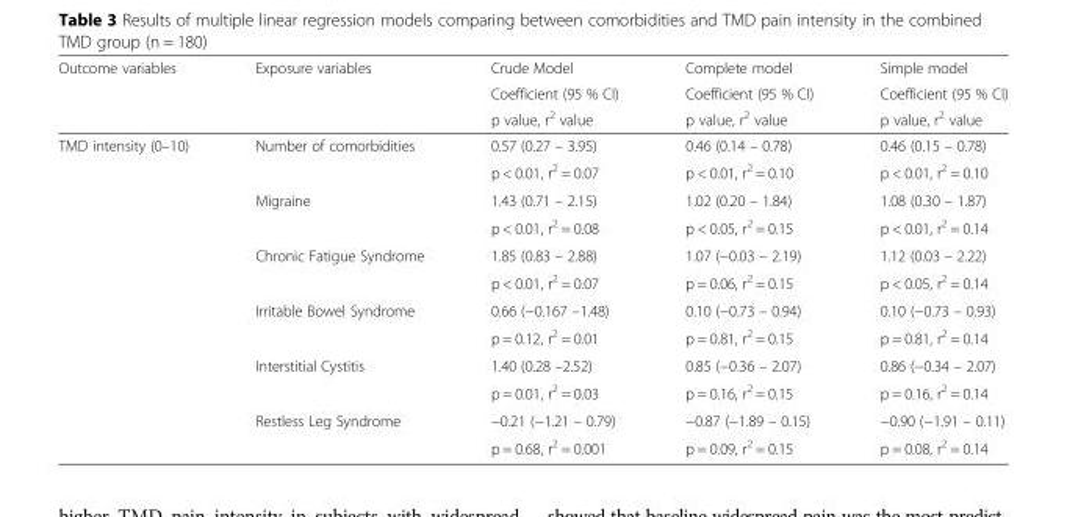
<table><thead><tr><td rowspan="3">Outcome variables</td><td rowspan="3">Exposure variables</td><td rowspan="3">Crude Model Coefficient (95 % CI) p value, r<sup>2</sup> value</td><td rowspan="3">Complete model Coefficient (95 % CI) p value, r<sup>2</sup> value</td><td rowspan="3">Simple model Coefficient (95 % CI) p value, r<sup>2</sup> value</td></tr><tr></tr><tr></tr></thead><tbody><tr><td rowspan="12">TMD intensity (0–10)</td><td rowspan="2">Number of comorbidities</td><td>0.57 (0.27 – 3.95)</td><td>0.46 (0.14 – 0.78)</td><td>0.46 (0.15 – 0.78)</td></tr><tr><td>p &lt; 0.01, r<sup>2</sup> = 0.07</td><td>p &lt; 0.01, r<sup>2</sup> = 0.10</td><td>p &lt; 0.01, r<sup>2</sup> = 0.10</td></tr><tr><td rowspan="2">Migraine</td><td>1.43 (0.71 – 2.15)</td><td>1.02 (0.20 – 1.84)</td><td>1.08 (0.30 – 1.87)</td></tr><tr><td>p &lt; 0.01, r<sup>2</sup> = 0.08</td><td>p &lt; 0.05, r<sup>2</sup> = 0.15</td><td>p &lt; 0.01, r<sup>2</sup> = 0.14</td></tr><tr><td rowspan="2">Chronic Fatigue Syndrome</td><td>1.85 (0.83 – 2.88)</td><td>1.07 (−0.03 – 2.19)</td><td>1.12 (0.03 – 2.22)</td></tr><tr><td>p &lt; 0.01, r<sup>2</sup> = 0.07</td><td>p = 0.06, r<sup>2</sup> = 0.15</td><td>p &lt; 0.05, r<sup>2</sup> = 0.14</td></tr><tr><td rowspan="2">Irritable Bowel Syndrome</td><td>0.66 (−0.167 –1.48)</td><td>0.10 (−0.73 – 0.94)</td><td>0.10 (−0.73 – 0.93)</td></tr><tr><td>p = 0.12, r<sup>2</sup> = 0.01</td><td>p = 0.81, r<sup>2</sup> = 0.15</td><td>p = 0.81, r<sup>2</sup> = 0.14</td></tr><tr><td rowspan="2">Interstitial Cystitis</td><td>1.40 (0.28 –2.52)</td><td>0.85 (−0.36 – 2.07)</td><td>0.86 (−0.34 – 2.07)</td></tr><tr><td>p = 0.01, r<sup>2</sup> = 0.03</td><td>p = 0.16, r<sup>2</sup> = 0.15</td><td>p = 0.16, r<sup>2</sup> = 0.14</td></tr><tr><td rowspan="2">Restless Leg Syndrome</td><td>−0.21 (−1.21 – 0.79)</td><td>−0.87 (−1.89 – 0.15)</td><td>−0.90 (−1.91 – 0.11)</td></tr><tr><td>p = 0.68, r<sup>2</sup> = 0.001</td><td>p = 0.09, r<sup>2</sup> = 0.15</td><td>p = 0.08, r<sup>2</sup> = 0.14</td></tr></tbody></table>